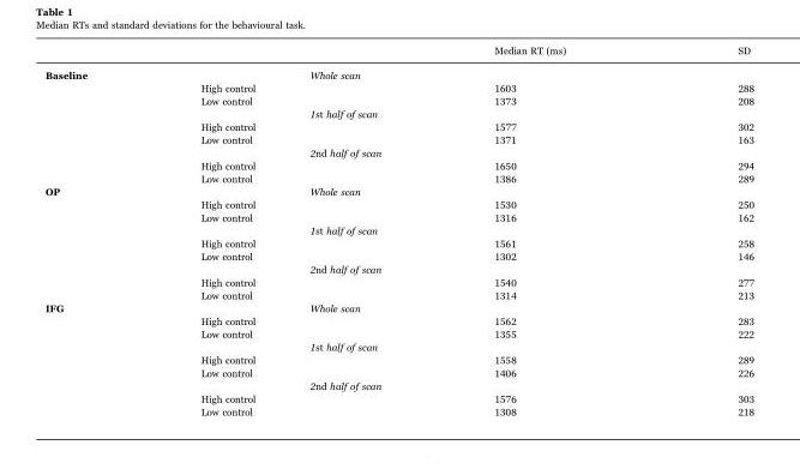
<table><thead><tr><td></td><td></td><td></td><td>Median RT (ms)</td><td>SD</td></tr></thead><tbody><tr><td rowspan="9">Baseline</td><td></td><td>Whole scan</td><td></td><td></td></tr><tr><td>High control</td><td></td><td>1603</td><td>288</td></tr><tr><td>Low control</td><td></td><td>1373</td><td>208</td></tr><tr><td></td><td>1st half of scan</td><td></td><td></td></tr><tr><td>High control</td><td></td><td>1577</td><td>302</td></tr><tr><td>Low control</td><td></td><td>1371</td><td>163</td></tr><tr><td></td><td>2nd half of scan</td><td></td><td></td></tr><tr><td>High control</td><td></td><td>1650</td><td>294</td></tr><tr><td>Low control</td><td></td><td>1386</td><td>289</td></tr><tr><td rowspan="9">OP</td><td></td><td>Whole scan</td><td></td><td></td></tr><tr><td>High control</td><td></td><td>1530</td><td>250</td></tr><tr><td>Low control</td><td></td><td>1316</td><td>162</td></tr><tr><td></td><td>1st half of scan</td><td></td><td></td></tr><tr><td>High control</td><td></td><td>1561</td><td>258</td></tr><tr><td>Low control</td><td></td><td>1302</td><td>146</td></tr><tr><td></td><td>2nd half of scan</td><td></td><td></td></tr><tr><td>High control</td><td></td><td>1540</td><td>277</td></tr><tr><td>Low control</td><td></td><td>1314</td><td>213</td></tr><tr><td rowspan="9">IFG</td><td></td><td>Whole scan</td><td></td><td></td></tr><tr><td>High control</td><td></td><td>1562</td><td>283</td></tr><tr><td>Low control</td><td></td><td>1355</td><td>222</td></tr><tr><td></td><td>1st half of scan</td><td></td><td></td></tr><tr><td>High control</td><td></td><td>1558</td><td>289</td></tr><tr><td>Low control</td><td></td><td>1406</td><td>226</td></tr><tr><td></td><td>2nd half of scan</td><td></td><td></td></tr><tr><td>High control</td><td></td><td>1576</td><td>303</td></tr><tr><td>Low control</td><td></td><td>1308</td><td>218</td></tr></tbody></table>